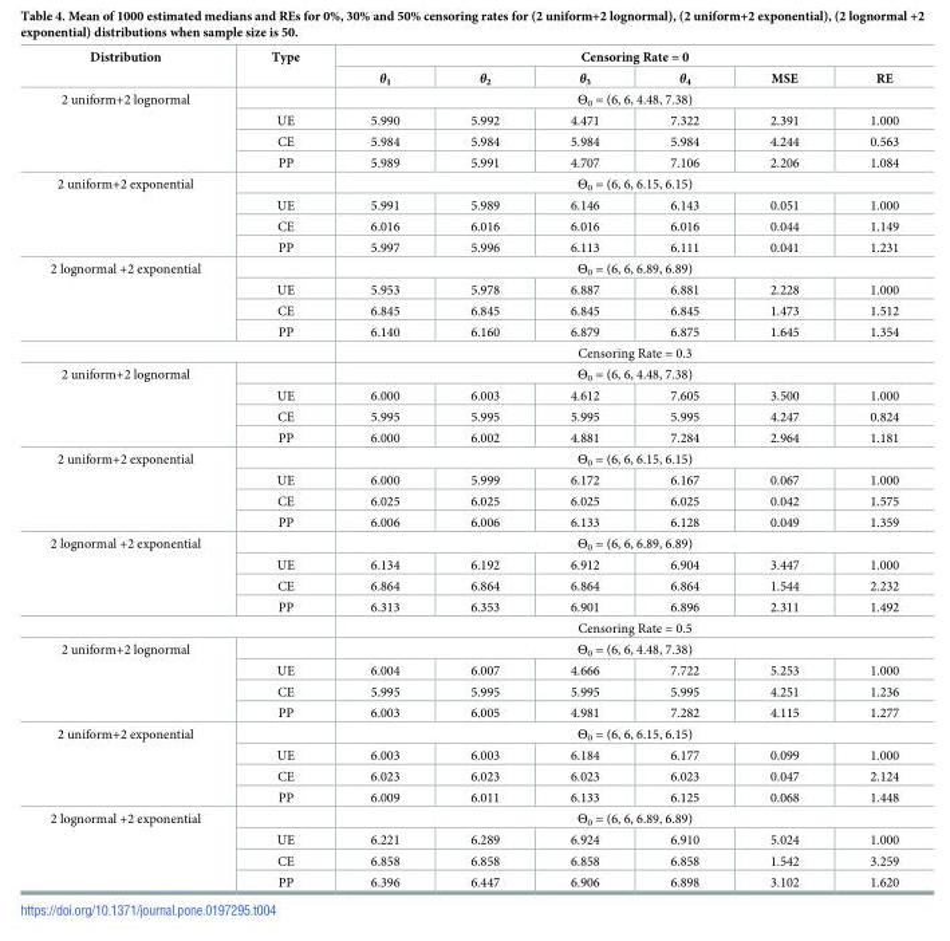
<table><thead><tr><td rowspan="2">Distribution</td><td rowspan="2">Type</td><td colspan="6">Censoring Rate = 0</td></tr><tr><td>θ<sub>1</sub></td><td>θ<sub>2</sub></td><td>θ<sub>3</sub></td><td>θ<sub>4</sub></td><td>MSE</td><td>RE</td></tr></thead><tbody><tr><td rowspan="4">2 uniform+2 lognormal</td><td></td><td colspan="6">Θ<sub>0</sub> = (6, 6, 4.48, 7.38)</td></tr><tr><td>UE</td><td>5.990</td><td>5.992</td><td>4.471</td><td>7.322</td><td>2.391</td><td>1.000</td></tr><tr><td>CE</td><td>5.984</td><td>5.984</td><td>5.984</td><td>5.984</td><td>4.244</td><td>0.563</td></tr><tr><td>PP</td><td>5.989</td><td>5.991</td><td>4.707</td><td>7.106</td><td>2.206</td><td>1.084</td></tr><tr><td rowspan="4">2 uniform+2 exponential</td><td></td><td colspan="6">Θ<sub>0</sub> = (6, 6, 6.15, 6.15)</td></tr><tr><td>UE</td><td>5.991</td><td>5.989</td><td>6.146</td><td>6.143</td><td>0.051</td><td>1.000</td></tr><tr><td>CE</td><td>6.016</td><td>6.016</td><td>6.016</td><td>6.016</td><td>0.044</td><td>1.149</td></tr><tr><td>PP</td><td>5.997</td><td>5.996</td><td>6.113</td><td>6.111</td><td>0.041</td><td>1.231</td></tr><tr><td rowspan="4">2 lognormal +2 exponential</td><td></td><td colspan="6">Θ<sub>0</sub> = (6, 6, 6.89, 6.89)</td></tr><tr><td>UE</td><td>5.953</td><td>5.978</td><td>6.887</td><td>6.881</td><td>2.228</td><td>1.000</td></tr><tr><td>CE</td><td>6.845</td><td>6.845</td><td>6.845</td><td>6.845</td><td>1.473</td><td>1.512</td></tr><tr><td>PP</td><td>6.140</td><td>6.160</td><td>6.879</td><td>6.875</td><td>1.645</td><td>1.354</td></tr><tr><td colspan="2"></td><td colspan="6">Censoring Rate = 0.3</td></tr><tr><td rowspan="4">2 uniform+2 lognormal</td><td></td><td colspan="6">Θ<sub>0</sub> = (6, 6, 4.48, 7.38)</td></tr><tr><td>UE</td><td>6.000</td><td>6.003</td><td>4.612</td><td>7.605</td><td>3.500</td><td>1.000</td></tr><tr><td>CE</td><td>5.995</td><td>5.995</td><td>5.995</td><td>5.995</td><td>4.247</td><td>0.824</td></tr><tr><td>PP</td><td>6.000</td><td>6.002</td><td>4.881</td><td>7.284</td><td>2.964</td><td>1.181</td></tr><tr><td rowspan="4">2 uniform+2 exponential</td><td></td><td colspan="6">Θ<sub>0</sub> = (6, 6, 6.15, 6.15)</td></tr><tr><td>UE</td><td>6.000</td><td>5.999</td><td>6.172</td><td>6.167</td><td>0.067</td><td>1.000</td></tr><tr><td>CE</td><td>6.025</td><td>6.025</td><td>6.025</td><td>6.025</td><td>0.042</td><td>1.575</td></tr><tr><td>PP</td><td>6.006</td><td>6.006</td><td>6.133</td><td>6.128</td><td>0.049</td><td>1.359</td></tr><tr><td rowspan="4">2 lognormal +2 exponential</td><td></td><td colspan="6">Θ<sub>0</sub> = (6, 6, 6.89, 6.89)</td></tr><tr><td>UE</td><td>6.134</td><td>6.192</td><td>6.912</td><td>6.904</td><td>3.447</td><td>1.000</td></tr><tr><td>CE</td><td>6.864</td><td>6.864</td><td>6.864</td><td>6.864</td><td>1.544</td><td>2.232</td></tr><tr><td>PP</td><td>6.313</td><td>6.353</td><td>6.901</td><td>6.896</td><td>2.311</td><td>1.492</td></tr><tr><td colspan="2"></td><td colspan="6">Censoring Rate = 0.5</td></tr><tr><td rowspan="4">2 uniform+2 lognormal</td><td></td><td colspan="6">Θ<sub>0</sub> = (6, 6, 4.48, 7.38)</td></tr><tr><td>UE</td><td>6.004</td><td>6.007</td><td>4.666</td><td>7.722</td><td>5.253</td><td>1.000</td></tr><tr><td>CE</td><td>5.995</td><td>5.995</td><td>5.995</td><td>5.995</td><td>4.251</td><td>1.236</td></tr><tr><td>PP</td><td>6.003</td><td>6.005</td><td>4.981</td><td>7.282</td><td>4.115</td><td>1.277</td></tr><tr><td rowspan="4">2 uniform+2 exponential</td><td></td><td colspan="6">Θ<sub>0</sub> = (6, 6, 6.15, 6.15)</td></tr><tr><td>UE</td><td>6.003</td><td>6.003</td><td>6.184</td><td>6.177</td><td>0.099</td><td>1.000</td></tr><tr><td>CE</td><td>6.023</td><td>6.023</td><td>6.023</td><td>6.023</td><td>0.047</td><td>2.124</td></tr><tr><td>PP</td><td>6.009</td><td>6.011</td><td>6.133</td><td>6.125</td><td>0.068</td><td>1.448</td></tr><tr><td rowspan="4">2 lognormal +2 exponential</td><td></td><td colspan="6">Θ<sub>0</sub> = (6, 6, 6.89, 6.89)</td></tr><tr><td>UE</td><td>6.221</td><td>6.289</td><td>6.924</td><td>6.910</td><td>5.024</td><td>1.000</td></tr><tr><td>CE</td><td>6.858</td><td>6.858</td><td>6.858</td><td>6.858</td><td>1.542</td><td>3.259</td></tr><tr><td>PP</td><td>6.396</td><td>6.447</td><td>6.906</td><td>6.898</td><td>3.102</td><td>1.620</td></tr></tbody></table>